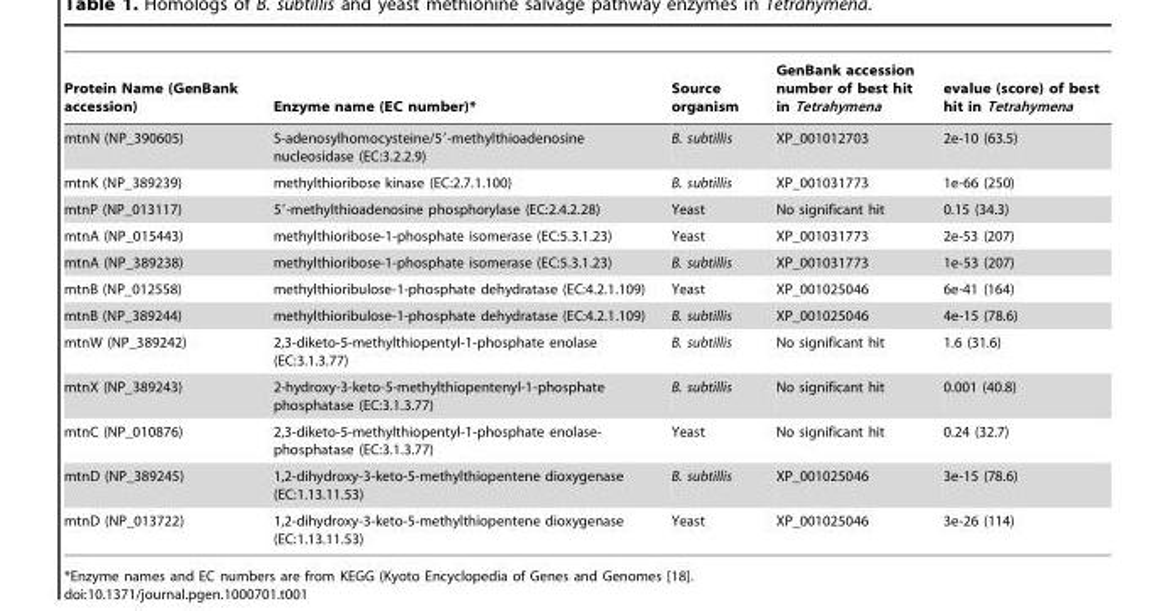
<table><thead><tr><td>Protein Name (GenBank accession)</td><td>Enzyme name (EC number)*</td><td>Source organism</td><td>GenBank accession number of best hit in Tetrahymena</td><td>evalue (score) of best hit in Tetrahymena</td></tr></thead><tbody><tr><td>mtnN (NP_390605)</td><td>S-adenosylhomocysteine/5′-methylthioadenosine nucleosidase (EC:3.2.2.9)</td><td>B. subtillis</td><td>XP_001012703</td><td>2e-10 (63.5)</td></tr><tr><td>mtnK (NP_389239)</td><td>methylthioribose kinase (EC:2.7.1.100)</td><td>B. subtillis</td><td>XP_001031773</td><td>1e-66 (250)</td></tr><tr><td>mtnP (NP_013117)</td><td>5′-methylthioadenosine phosphorylase (EC:2.4.2.28)</td><td>Yeast</td><td>No significant hit</td><td>0.15 (34.3)</td></tr><tr><td>mtnA (NP_015443)</td><td>methylthioribose-1-phosphate isomerase (EC:5.3.1.23)</td><td>Yeast</td><td>XP_001031773</td><td>2e-53 (207)</td></tr><tr><td>mtnA (NP_389238)</td><td>methylthioribose-1-phosphate isomerase (EC:5.3.1.23)</td><td>B. subtillis</td><td>XP_001031773</td><td>1e-53 (207)</td></tr><tr><td>mtnB (NP_012558)</td><td>methylthioribulose-1-phosphate dehydratase (EC:4.2.1.109)</td><td>Yeast</td><td>XP_001025046</td><td>6e-41 (164)</td></tr><tr><td>mtnB (NP_389244)</td><td>methylthioribulose-1-phosphate dehydratase (EC:4.2.1.109)</td><td>B. subtillis</td><td>XP_001025046</td><td>4e-15 (78.6)</td></tr><tr><td>mtnW (NP_389242)</td><td>2,3-diketo-5-methylthiopentyl-1-phosphate enolase (EC:3.1.3.77)</td><td>B. subtillis</td><td>No significant hit</td><td>1.6 (31.6)</td></tr><tr><td>mtnX (NP_389243)</td><td>2-hydroxy-3-keto-5-methylthiopentenyl-1-phosphate phosphatase (EC:3.1.3.77)</td><td>B. subtillis</td><td>No significant hit</td><td>0.001 (40.8)</td></tr><tr><td>mtnC (NP_010876)</td><td>2,3-diketo-5-methylthiopentyl-1-phosphate enolase- phosphatase (EC:3.1.3.77)</td><td>Yeast</td><td>No significant hit</td><td>0.24 (32.7)</td></tr><tr><td>mtnD (NP_389245)</td><td>1,2-dihydroxy-3-keto-5-methylthiopentene dioxygenase (EC:1.13.11.53)</td><td>B. subtillis</td><td>XP_001025046</td><td>3e-15 (78.6)</td></tr><tr><td>mtnD (NP_013722)</td><td>1,2-dihydroxy-3-keto-5-methylthiopentene dioxygenase (EC:1.13.11.53)</td><td>Yeast</td><td>XP_001025046</td><td>3e-26 (114)</td></tr></tbody></table>